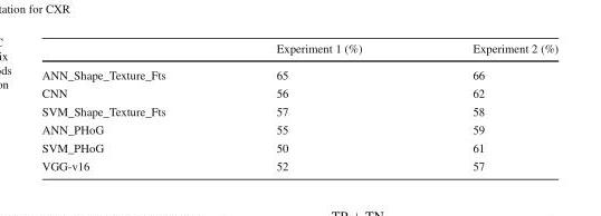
<table><thead><tr><td></td><td>Experiment 1 (%)</td><td>Experiment 2 (%)</td></tr></thead><tbody><tr><td>ANN_Shape_Texture_Fts</td><td>65</td><td>66</td></tr><tr><td>CNN</td><td>56</td><td>62</td></tr><tr><td>SVM_Shape_Texture_Fts</td><td>57</td><td>58</td></tr><tr><td>ANN_PHoG</td><td>55</td><td>59</td></tr><tr><td>SVM_PHoG</td><td>50</td><td>61</td></tr><tr><td>VGG-v16</td><td>52</td><td>57</td></tr></tbody></table>